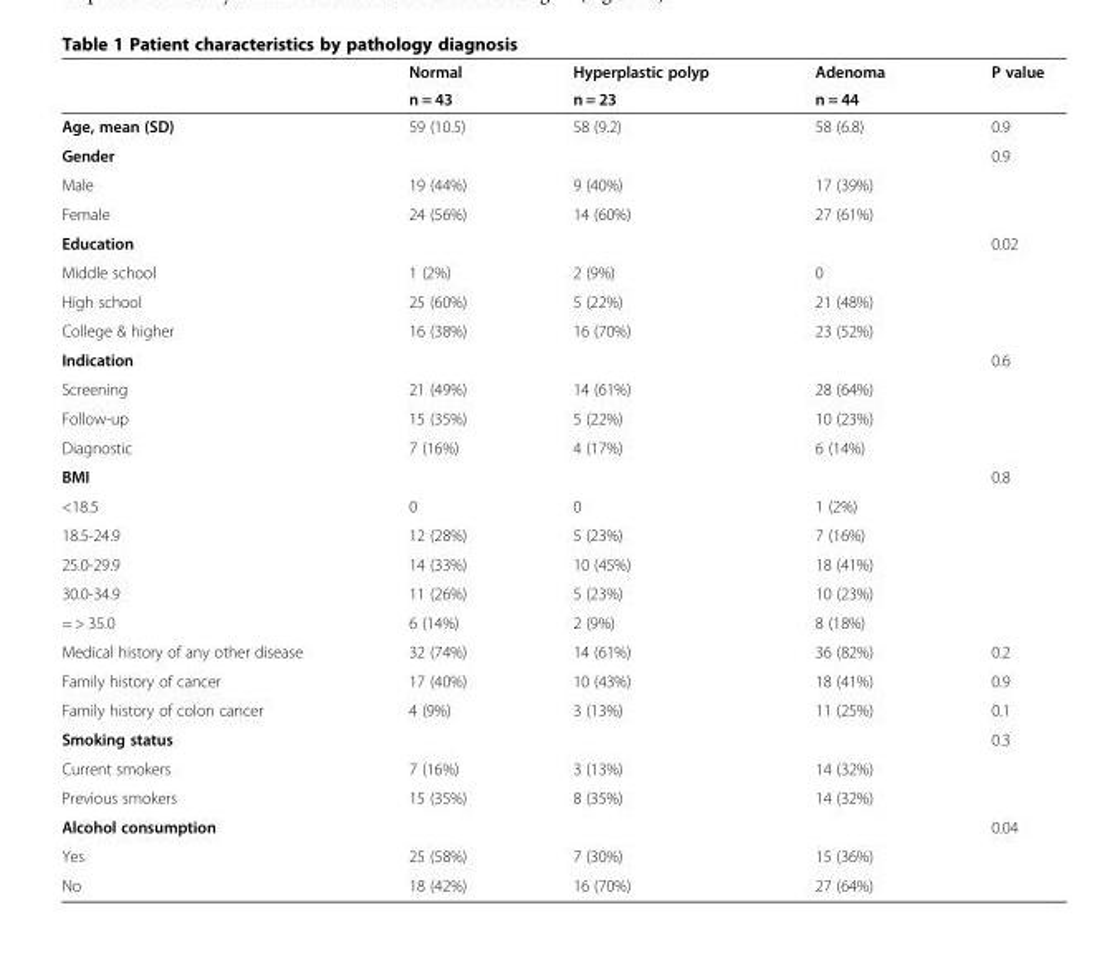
<table><thead><tr><td rowspan="2"></td><td rowspan="2">Normal n = 43</td><td rowspan="2">Hyperplastic polyp n = 23</td><td rowspan="2">Adenoma n = 44</td><td rowspan="2">P value</td></tr><tr></tr></thead><tbody><tr><td>Age, mean (SD)</td><td>59 (10.5)</td><td>58 (9.2)</td><td>58 (6.8)</td><td>0.9</td></tr><tr><td>Gender</td><td></td><td></td><td></td><td>0.9</td></tr><tr><td>Male</td><td>19 (44%)</td><td>9 (40%)</td><td>17 (39%)</td><td></td></tr><tr><td>Female</td><td>24 (56%)</td><td>14 (60%)</td><td>27 (61%)</td><td></td></tr><tr><td>Education</td><td></td><td></td><td></td><td>0.02</td></tr><tr><td>Middle school</td><td>1 (2%)</td><td>2 (9%)</td><td>0</td><td></td></tr><tr><td>High school</td><td>25 (60%)</td><td>5 (22%)</td><td>21 (48%)</td><td></td></tr><tr><td>College &amp; higher</td><td>16 (38%)</td><td>16 (70%)</td><td>23 (52%)</td><td></td></tr><tr><td>Indication</td><td></td><td></td><td></td><td>0.6</td></tr><tr><td>Screening</td><td>21 (49%)</td><td>14 (61%)</td><td>28 (64%)</td><td></td></tr><tr><td>Follow-up</td><td>15 (35%)</td><td>5 (22%)</td><td>10 (23%)</td><td></td></tr><tr><td>Diagnostic</td><td>7 (16%)</td><td>4 (17%)</td><td>6 (14%)</td><td></td></tr><tr><td>BMI</td><td></td><td></td><td></td><td>0.8</td></tr><tr><td>&lt;18.5</td><td>0</td><td>0</td><td>1 (2%)</td><td></td></tr><tr><td>18.5-24.9</td><td>12 (28%)</td><td>5 (23%)</td><td>7 (16%)</td><td></td></tr><tr><td>25.0-29.9</td><td>14 (33%)</td><td>10 (45%)</td><td>18 (41%)</td><td></td></tr><tr><td>30.0-34.9</td><td>11 (26%)</td><td>5 (23%)</td><td>10 (23%)</td><td></td></tr><tr><td>= &gt; 35.0</td><td>6 (14%)</td><td>2 (9%)</td><td>8 (18%)</td><td></td></tr><tr><td>Medical history of any other disease</td><td>32 (74%)</td><td>14 (61%)</td><td>36 (82%)</td><td>0.2</td></tr><tr><td>Family history of cancer</td><td>17 (40%)</td><td>10 (43%)</td><td>18 (41%)</td><td>0.9</td></tr><tr><td>Family history of colon cancer</td><td>4 (9%)</td><td>3 (13%)</td><td>11 (25%)</td><td>0.1</td></tr><tr><td>Smoking status</td><td></td><td></td><td></td><td>0.3</td></tr><tr><td>Current smokers</td><td>7 (16%)</td><td>3 (13%)</td><td>14 (32%)</td><td></td></tr><tr><td>Previous smokers</td><td>15 (35%)</td><td>8 (35%)</td><td>14 (32%)</td><td></td></tr><tr><td>Alcohol consumption</td><td></td><td></td><td></td><td>0.04</td></tr><tr><td>Yes</td><td>25 (58%)</td><td>7 (30%)</td><td>15 (36%)</td><td></td></tr><tr><td>No</td><td>18 (42%)</td><td>16 (70%)</td><td>27 (64%)</td><td></td></tr></tbody></table>